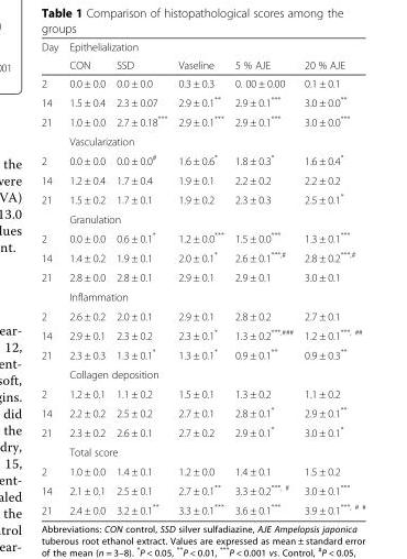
<table><thead><tr><td rowspan="2">Day</td><td colspan="5">Epithelialization</td></tr><tr><td>CON</td><td>SSD</td><td>Vaseline</td><td>5 % AJE</td><td>20 % AJE</td></tr></thead><tbody><tr><td>2</td><td>0.0 ± 0.0</td><td>0.0 ± 0.0</td><td>0.3 ± 0.3</td><td>0. 00 ± 0.00</td><td>0.1 ± 0.1</td></tr><tr><td>14</td><td>1.5 ± 0.4</td><td>2.3 ± 0.07</td><td>2.9 ± 0.1**</td><td>2.9 ± 0.1***</td><td>3.0 ± 0.0**</td></tr><tr><td rowspan="2">21</td><td>1.0 ± 0.0</td><td>2.7 ± 0.18***</td><td>2.9 ± 0.1***</td><td>2.9 ± 0.1***</td><td>3.0 ± 0.0***</td></tr><tr><td colspan="5">Vascularization</td></tr><tr><td>2</td><td>0.0 ± 0.0</td><td>0.0 ± 0.0<sup>#</sup></td><td>1.6 ± 0.6*</td><td>1.8 ± 0.3*</td><td>1.6 ± 0.4*</td></tr><tr><td>14</td><td>1.2 ± 0.4</td><td>1.7 ± 0.4</td><td>1.9 ± 0.1</td><td>2.2 ± 0.2</td><td>2.2 ± 0.2</td></tr><tr><td rowspan="2">21</td><td>1.5 ± 0.2</td><td>1.7 ± 0.1</td><td>1.9 ± 0.2</td><td>2.3 ± 0.3</td><td>2.5 ± 0.1*</td></tr><tr><td colspan="5">Granulation</td></tr><tr><td>2</td><td>0.0 ± 0.0</td><td>0.6 ± 0.1*</td><td>1.2 ± 0.0***</td><td>1.5 ± 0.0***</td><td>1.3 ± 0.1***</td></tr><tr><td>14</td><td>1.4 ± 0.2</td><td>1.9 ± 0.1</td><td>2.0 ± 0.1*</td><td>2.6 ± 0.1<sup>***,#</sup></td><td>2.8 ± 0.2<sup>***,#</sup></td></tr><tr><td rowspan="2">21</td><td>2.8 ± 0.0</td><td>2.8 ± 0.1</td><td>2.9 ± 0.1</td><td>2.9 ± 0.1</td><td>3.0 ± 0.1</td></tr><tr><td colspan="5">Inflammation</td></tr><tr><td>2</td><td>2.6 ± 0.2</td><td>2.0 ± 0.1</td><td>2.9 ± 0.1</td><td>2.8 ± 0.2</td><td>2.7 ± 0.1</td></tr><tr><td>14</td><td>2.9 ± 0.1</td><td>2.3 ± 0.2</td><td>2.3 ± 0.1*</td><td>1.3 ± 0.2<sup>***,###</sup></td><td>1.2 ± 0.1<sup>***, ##</sup></td></tr><tr><td rowspan="2">21</td><td>2.3 ± 0.3</td><td>1.3 ± 0.1*</td><td>1.3 ± 0.1*</td><td>0.9 ± 0.1**</td><td>0.9 ± 0.3**</td></tr><tr><td colspan="5">Collagen deposition</td></tr><tr><td>2</td><td>1.2 ± 0.1</td><td>1.1 ± 0.2</td><td>1.5 ± 0.1</td><td>1.3 ± 0.2</td><td>1.1 ± 0.2</td></tr><tr><td>14</td><td>2.2 ± 0.2</td><td>2.5 ± 0.2</td><td>2.7 ± 0.1</td><td>2.8 ± 0.1*</td><td>2.9 ± 0.1**</td></tr><tr><td rowspan="2">21</td><td>2.3 ± 0.2</td><td>2.6 ± 0.1</td><td>2.7 ± 0.2</td><td>2.9 ± 0.1*</td><td>3.0 ± 0.1*</td></tr><tr><td colspan="5">Total score</td></tr><tr><td>2</td><td>1.0 ± 0.0</td><td>1.4 ± 0.1</td><td>1.2 ± 0.0</td><td>1.4 ± 0.1</td><td>1.5 ± 0.2</td></tr><tr><td>14</td><td>2.1 ± 0.1</td><td>2.5 ± 0.1</td><td>2.7 ± 0.1**</td><td>3.3 ± 0.2<sup>***, #</sup></td><td>3.0 ± 0.1***</td></tr><tr><td>21</td><td>2.4 ± 0.0</td><td>3.2 ± 0.1**</td><td>3.3 ± 0.1***</td><td>3.6 ± 0.1***</td><td>3.9 ± 0.1<sup>***, # #</sup></td></tr></tbody></table>